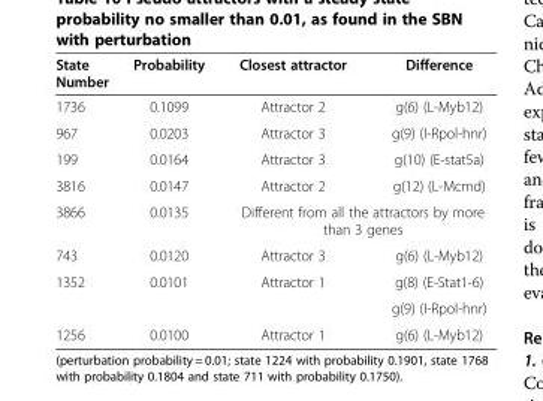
<table><thead><tr><td>State Number</td><td>Probability</td><td>Closest attractor</td><td>Difference</td></tr></thead><tbody><tr><td>1736</td><td>0.1099</td><td>Attractor 2</td><td>g(6) (L-Myb12)</td></tr><tr><td>967</td><td>0.0203</td><td>Attractor 3</td><td>g(9) (I-Rpol-hnr)</td></tr><tr><td>199</td><td>0.0164</td><td>Attractor 3</td><td>g(10) (E-stat5a)</td></tr><tr><td>3816</td><td>0.0147</td><td>Attractor 2</td><td>g(12) (L-Mcmd)</td></tr><tr><td>3866</td><td>0.0135</td><td colspan="2">Different from all the attractors by more than 3 genes</td></tr><tr><td>743</td><td>0.0120</td><td>Attractor 3</td><td>g(6) (L-Myb12)</td></tr><tr><td rowspan="2">1352</td><td rowspan="2">0.0101</td><td rowspan="2">Attractor 1</td><td>g(8) (E-Stat1-6)</td></tr><tr><td>g(9) (I-Rpol-hnr)</td></tr><tr><td>1256</td><td>0.0100</td><td>Attractor 1</td><td>g(6) (L-Myb12)</td></tr></tbody></table>